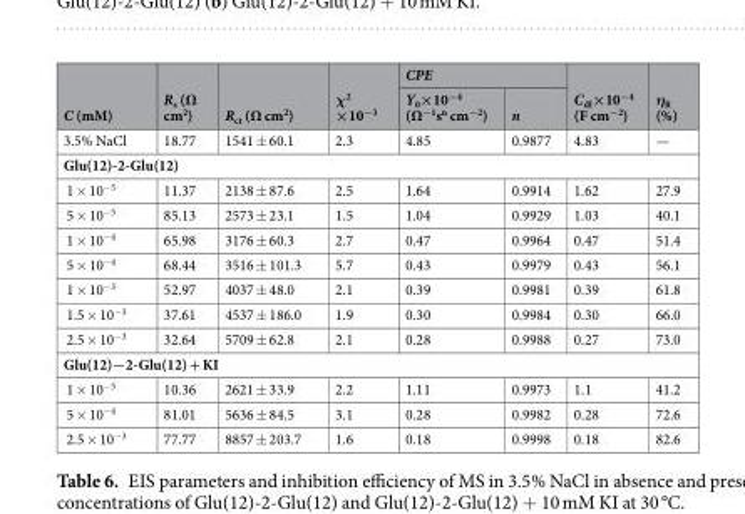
<table><thead><tr><td rowspan="2">C (mM)</td><td rowspan="2">R<sub>s</sub> (Ω cm<sup>2</sup>)</td><td rowspan="2">R<sub>ct</sub> (Ω cm<sup>2</sup>)</td><td rowspan="2">χ<sup>2</sup> ×10<sup>−3</sup></td><td colspan="2">CPE</td><td rowspan="2">C<sub>dl</sub>×10<sup>−4</sup> (F cm<sup>−2</sup>)</td><td rowspan="2">η<sub>R</sub> (%)</td></tr><tr><td>Y<sub>0</sub>×10<sup>−4</sup> (Ω<sup>−1</sup>s<sup>n</sup> cm<sup>−2</sup>)</td><td>n</td></tr></thead><tbody><tr><td>3.5% NaCl</td><td>18.77</td><td>1541 ± 60.1</td><td>2.3</td><td>4.85</td><td>0.9877</td><td>4.83</td><td>—</td></tr><tr><td colspan="8">Glu(12)-2-Glu(12)</td></tr><tr><td>1 × 10<sup>−5</sup></td><td>11.37</td><td>2138 ± 87.6</td><td>2.5</td><td>1.64</td><td>0.9914</td><td>1.62</td><td>27.9</td></tr><tr><td>5 × 10<sup>−5</sup></td><td>85.13</td><td>2573 ± 23.1</td><td>1.5</td><td>1.04</td><td>0.9929</td><td>1.03</td><td>40.1</td></tr><tr><td>1 × 10<sup>−4</sup></td><td>65.98</td><td>3176 ± 60.3</td><td>2.7</td><td>0.47</td><td>0.9964</td><td>0.47</td><td>51.4</td></tr><tr><td>5 × 10<sup>−4</sup></td><td>68.44</td><td>3516 ± 101.3</td><td>5.7</td><td>0.43</td><td>0.9979</td><td>0.43</td><td>56.1</td></tr><tr><td>1 × 10<sup>−3</sup></td><td>52.97</td><td>4037 ± 48.0</td><td>2.1</td><td>0.39</td><td>0.9981</td><td>0.39</td><td>61.8</td></tr><tr><td>1.5 × 10<sup>−3</sup></td><td>37.61</td><td>4537 ± 186.0</td><td>1.9</td><td>0.30</td><td>0.9984</td><td>0.30</td><td>66.0</td></tr><tr><td>2.5 × 10<sup>−3</sup></td><td>32.64</td><td>5709 ± 62.8</td><td>2.1</td><td>0.28</td><td>0.9988</td><td>0.27</td><td>73.0</td></tr><tr><td colspan="8">Glu(12)−2-Glu(12) + KI</td></tr><tr><td>1 × 10<sup>−5</sup></td><td>10.36</td><td>2621 ± 33.9</td><td>2.2</td><td>1.11</td><td>0.9973</td><td>1.1</td><td>41.2</td></tr><tr><td>5 × 10<sup>−4</sup></td><td>81.01</td><td>5636 ± 84.5</td><td>3.1</td><td>0.28</td><td>0.9982</td><td>0.28</td><td>72.6</td></tr><tr><td>2.5 × 10<sup>−3</sup></td><td>77.77</td><td>8857 ± 203.7</td><td>1.6</td><td>0.18</td><td>0.9998</td><td>0.18</td><td>82.6</td></tr></tbody></table>